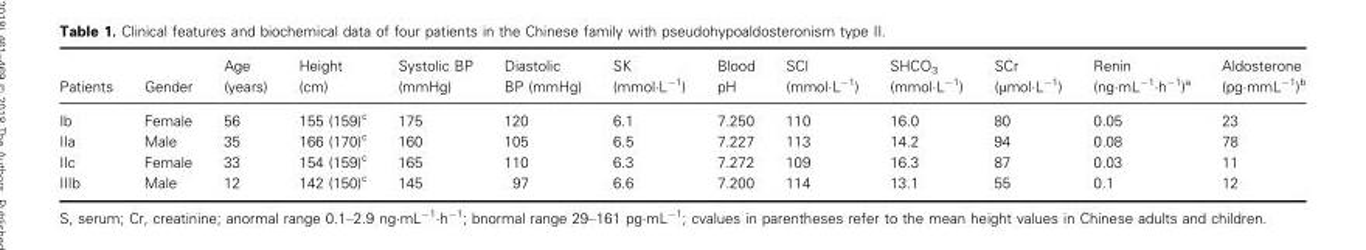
<table><thead><tr><td>Patients</td><td>Gender</td><td>Age (years)</td><td>Height (cm)</td><td>Systolic BP (mmHg)</td><td>Diastolic BP (mmHg)</td><td>SK (mmol·L<sup>−1</sup>)</td><td>Blood pH</td><td>SCl (mmol·L<sup>−1</sup>)</td><td>SHCO<sub>3</sub> (mmol·L<sup>−1</sup>)</td><td>SCr (μmol·L<sup>−1</sup>)</td><td>Renin (ng·mL<sup>−1</sup>·h<sup>−1</sup>)<sup>a</sup></td><td>Aldosterone (pg·mmL<sup>−1</sup>)<sup>b</sup></td></tr></thead><tbody><tr><td>Ib</td><td>Female</td><td>56</td><td>155 (159)<sup>c</sup></td><td>175</td><td>120</td><td>6.1</td><td>7.250</td><td>110</td><td>16.0</td><td>80</td><td>0.05</td><td>23</td></tr><tr><td>IIa</td><td>Male</td><td>35</td><td>166 (170)<sup>c</sup></td><td>160</td><td>105</td><td>6.5</td><td>7.227</td><td>113</td><td>14.2</td><td>94</td><td>0.08</td><td>78</td></tr><tr><td>IIc</td><td>Female</td><td>33</td><td>154 (159)<sup>c</sup></td><td>165</td><td>110</td><td>6.3</td><td>7.272</td><td>109</td><td>16.3</td><td>87</td><td>0.03</td><td>11</td></tr><tr><td>IIIb</td><td>Male</td><td>12</td><td>142 (150)<sup>c</sup></td><td>145</td><td>97</td><td>6.6</td><td>7.200</td><td>114</td><td>13.1</td><td>55</td><td>0.1</td><td>12</td></tr></tbody></table>